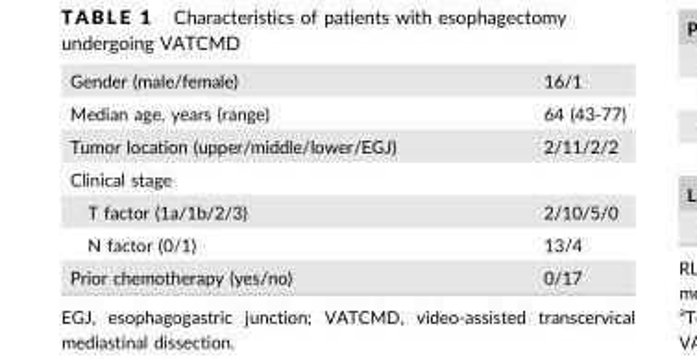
<table><tbody><tr><td>Gender (male/female)</td><td>16/1</td></tr><tr><td>Median age, years (range)</td><td>64 (43-77)</td></tr><tr><td>Tumor location (upper/middle/lower/EGJ)</td><td>2/11/2/2</td></tr><tr><td colspan="2">Clinical stage</td></tr><tr><td>T factor (1a/1b/2/3)</td><td>2/10/5/0</td></tr><tr><td>N factor (0/1)</td><td>13/4</td></tr><tr><td>Prior chemotherapy (yes/no)</td><td>0/17</td></tr></tbody></table>